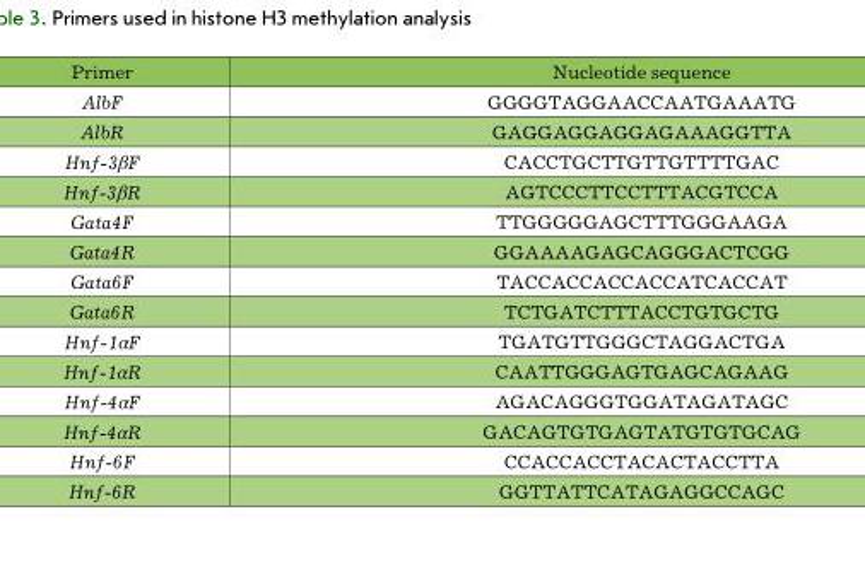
<table><thead><tr><td>Primer</td><td>Nucleotide sequence</td></tr></thead><tbody><tr><td>AlbF</td><td>GGGGTAGGAACCAATGAAATG</td></tr><tr><td>AlbR</td><td>GAGGAGGAGGAGAAAGGTTA</td></tr><tr><td>Hnf-3βF</td><td>CACCTGCTTGTTGTTTTGAC</td></tr><tr><td>Hnf-3βR</td><td>AGTCCCTTCCTTTACGTCCA</td></tr><tr><td>Gata4F</td><td>TTGGGGGAGCTTTGGGAAGA</td></tr><tr><td>Gata4R</td><td>GGAAAAGAGCAGGGACTCGG</td></tr><tr><td>Gata6F</td><td>TACCACCACCACCATCACCAT</td></tr><tr><td>Gata6R</td><td>TCTGATCTTTACCTGTGCTG</td></tr><tr><td>Hnf-1αF</td><td>TGATGTTGGGCTAGGACTGA</td></tr><tr><td>Hnf-1αR</td><td>CAATTGGGAGTGAGCAGAAG</td></tr><tr><td>Hnf-4αF</td><td>AGACAGGGTGGATAGATAGC</td></tr><tr><td>Hnf-4αR</td><td>GACAGTGTGAGTATGTGTGCAG</td></tr><tr><td>Hnf-6F</td><td>CCACCACCTACACTACCTTA</td></tr><tr><td>Hnf-6R</td><td>GGTTATTCATAGAGGCCAGC</td></tr></tbody></table>